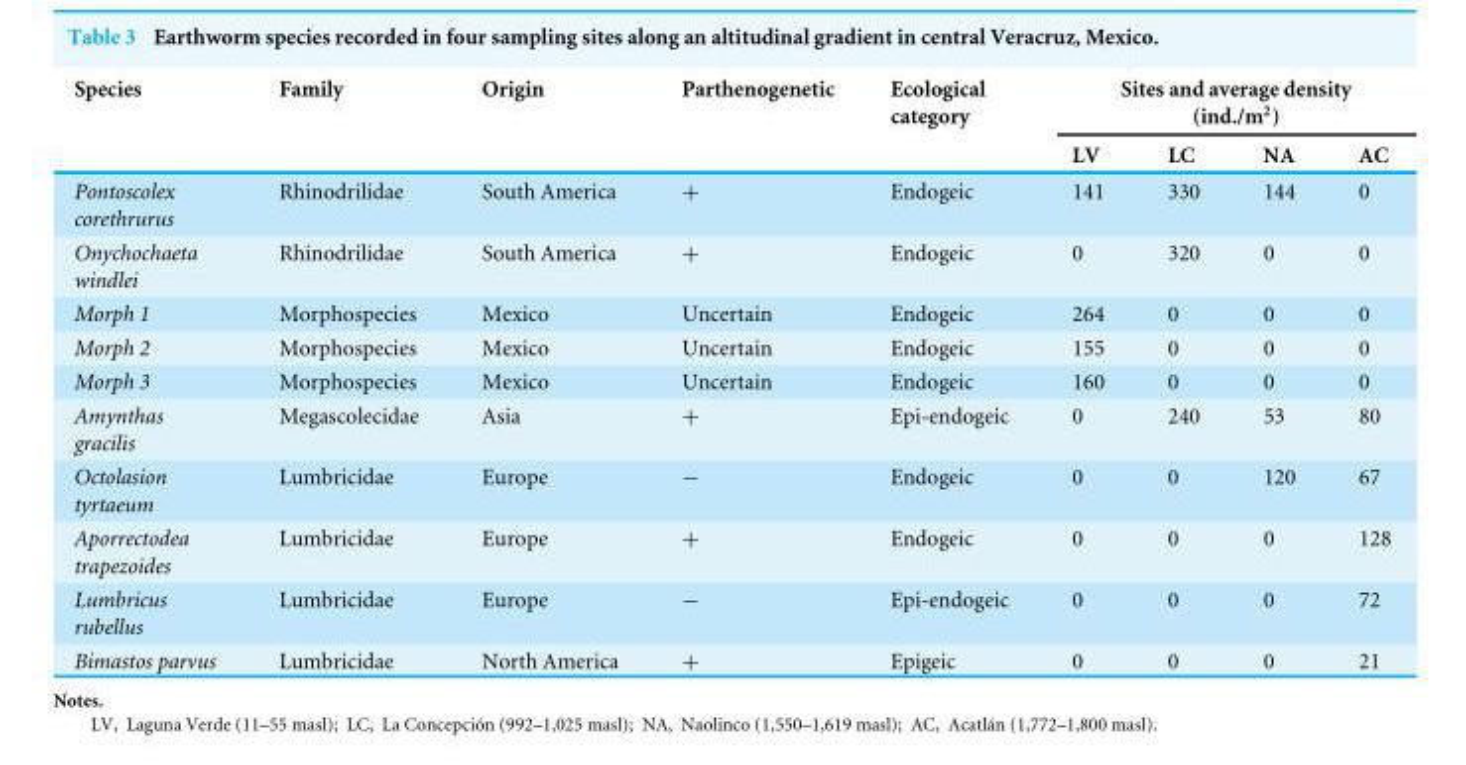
<table><thead><tr><td rowspan="2">Species</td><td rowspan="2">Family</td><td rowspan="2">Origin</td><td rowspan="2">Parthenogenetic</td><td rowspan="2">Ecological category</td><td colspan="4">Sites and average density (ind./m<sup>2</sup>)</td></tr><tr><td>LV</td><td>LC</td><td>NA</td><td>AC</td></tr></thead><tbody><tr><td>Pontoscolex corethrurus</td><td>Rhinodrilidae</td><td>South America</td><td>+</td><td>Endogeic</td><td>141</td><td>330</td><td>144</td><td>0</td></tr><tr><td>Onychochaeta windlei</td><td>Rhinodrilidae</td><td>South America</td><td>+</td><td>Endogeic</td><td>0</td><td>320</td><td>0</td><td>0</td></tr><tr><td>Morph 1</td><td>Morphospecies</td><td>Mexico</td><td>Uncertain</td><td>Endogeic</td><td>264</td><td>0</td><td>0</td><td>0</td></tr><tr><td>Morph 2</td><td>Morphospecies</td><td>Mexico</td><td>Uncertain</td><td>Endogeic</td><td>155</td><td>0</td><td>0</td><td>0</td></tr><tr><td>Morph 3</td><td>Morphospecies</td><td>Mexico</td><td>Uncertain</td><td>Endogeic</td><td>160</td><td>0</td><td>0</td><td>0</td></tr><tr><td>Amynthas gracilis</td><td>Megascolecidae</td><td>Asia</td><td>+</td><td>Epi-endogeic</td><td>0</td><td>240</td><td>53</td><td>80</td></tr><tr><td>Octolasion tyrtaeum</td><td>Lumbricidae</td><td>Europe</td><td>−</td><td>Endogeic</td><td>0</td><td>0</td><td>120</td><td>67</td></tr><tr><td>Aporrectodea trapezoides</td><td>Lumbricidae</td><td>Europe</td><td>+</td><td>Endogeic</td><td>0</td><td>0</td><td>0</td><td>128</td></tr><tr><td>Lumbricus rubellus</td><td>Lumbricidae</td><td>Europe</td><td>−</td><td>Epi-endogeic</td><td>0</td><td>0</td><td>0</td><td>72</td></tr><tr><td>Bimastos parvus</td><td>Lumbricidae</td><td>North America</td><td>+</td><td>Epigeic</td><td>0</td><td>0</td><td>0</td><td>21</td></tr></tbody></table>